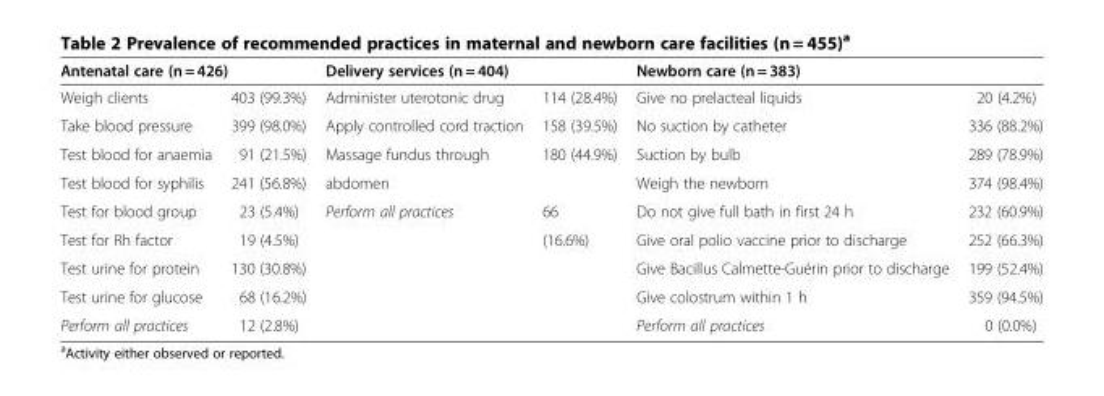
<table><thead><tr><td colspan="2">Antenatal care (n = 426)</td><td colspan="2">Delivery services (n = 404)</td><td colspan="2">Newborn care (n = 383)</td></tr><tr><td>Weigh clients</td><td>403 (99.3%)</td><td>Administer uterotonic drug</td><td>114 (28.4%)</td><td>Give no prelacteal liquids</td><td>20 (4.2%)</td></tr></thead><tbody><tr><td>Take blood pressure</td><td>399 (98.0%)</td><td>Apply controlled cord traction</td><td>158 (39.5%)</td><td>No suction by catheter</td><td>336 (88.2%)</td></tr><tr><td>Test blood for anaemia</td><td>91 (21.5%)</td><td>Massage fundus through</td><td>180 (44.9%)</td><td>Suction by bulb</td><td>289 (78.9%)</td></tr><tr><td>Test blood for syphilis</td><td>241 (56.8%)</td><td>abdomen</td><td></td><td>Weigh the newborn</td><td>374 (98.4%)</td></tr><tr><td>Test for blood group</td><td>23 (5.4%)</td><td>Perform all practices</td><td>66</td><td>Do not give full bath in first 24 h</td><td>232 (60.9%)</td></tr><tr><td>Test for Rh factor</td><td>19 (4.5%)</td><td></td><td>(16.6%)</td><td>Give oral polio vaccine prior to discharge</td><td>252 (66.3%)</td></tr><tr><td>Test urine for protein</td><td>130 (30.8%)</td><td></td><td></td><td>Give Bacillus Calmette-Guérin prior to discharge</td><td>199 (52.4%)</td></tr><tr><td>Test urine for glucose</td><td>68 (16.2%)</td><td></td><td></td><td>Give colostrum within 1 h</td><td>359 (94.5%)</td></tr><tr><td>Perform all practices</td><td>12 (2.8%)</td><td></td><td></td><td>Perform all practices</td><td>0 (0.0%)</td></tr></tbody></table>